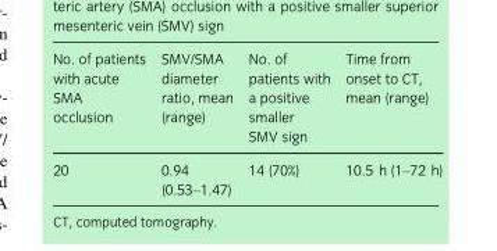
<table><thead><tr><td>No. of patients with acute SMA occlusion</td><td>SMV/SMA diameter ratio, mean (range)</td><td>No. of patients with a positive smaller SMV sign</td><td>Time from onset to CT, mean (range)</td></tr></thead><tbody><tr><td>20</td><td>0.94 (0.53–1.47)</td><td>14 (70%)</td><td>10.5 h (1–72 h)</td></tr></tbody></table>